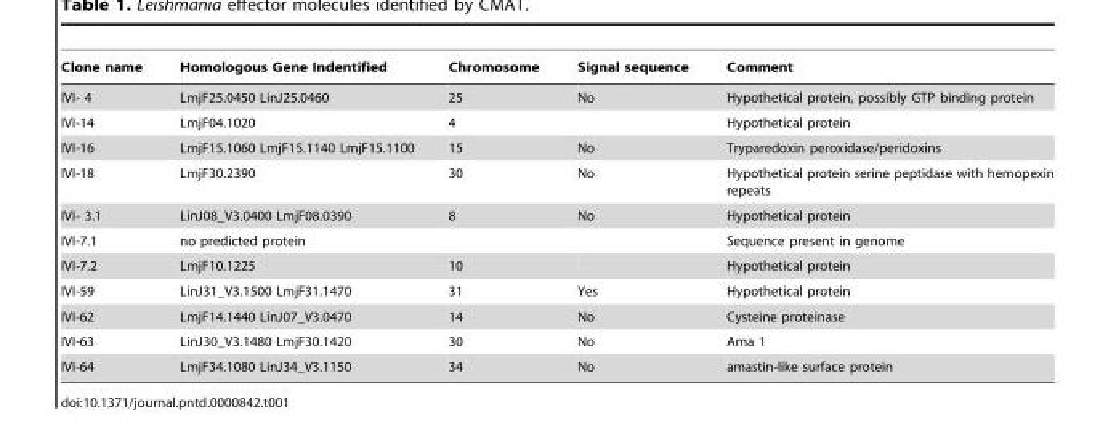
<table><thead><tr><td>Clone name</td><td>Homologous Gene Indentified</td><td>Chromosome</td><td>Signal sequence</td><td>Comment</td></tr></thead><tbody><tr><td>IVI- 4</td><td>LmjF25.0450 LinJ25.0460</td><td>25</td><td>No</td><td>Hypothetical protein, possibly GTP binding protein</td></tr><tr><td>IVI-14</td><td>LmjF04.1020</td><td>4</td><td></td><td>Hypothetical protein</td></tr><tr><td>IVI-16</td><td>LmjF15.1060 LmjF15.1140 LmjF15.1100</td><td>15</td><td>No</td><td>Tryparedoxin peroxidase/peridoxins</td></tr><tr><td>IVI-18</td><td>LmjF30.2390</td><td>30</td><td>No</td><td>Hypothetical protein serine peptidase with hemopexin repeats</td></tr><tr><td>IVI- 3.1</td><td>LinJ08_V3.0400 LmjF08.0390</td><td>8</td><td>No</td><td>Hypothetical protein</td></tr><tr><td>IVI-7.1</td><td>no predicted protein</td><td></td><td></td><td>Sequence present in genome</td></tr><tr><td>IVI-7.2</td><td>LmjF10.1225</td><td>10</td><td></td><td>Hypothetical protein</td></tr><tr><td>IVI-59</td><td>LinJ31_V3.1500 LmjF31.1470</td><td>31</td><td>Yes</td><td>Hypothetical protein</td></tr><tr><td>IVI-62</td><td>LmjF14.1440 LinJ07_V3.0470</td><td>14</td><td>No</td><td>Cysteine proteinase</td></tr><tr><td>IVI-63</td><td>LinJ30_V3.1480 LmjF30.1420</td><td>30</td><td>No</td><td>Ama 1</td></tr><tr><td>IVI-64</td><td>LmjF34.1080 LinJ34_V3.1150</td><td>34</td><td>No</td><td>amastin-like surface protein</td></tr></tbody></table>